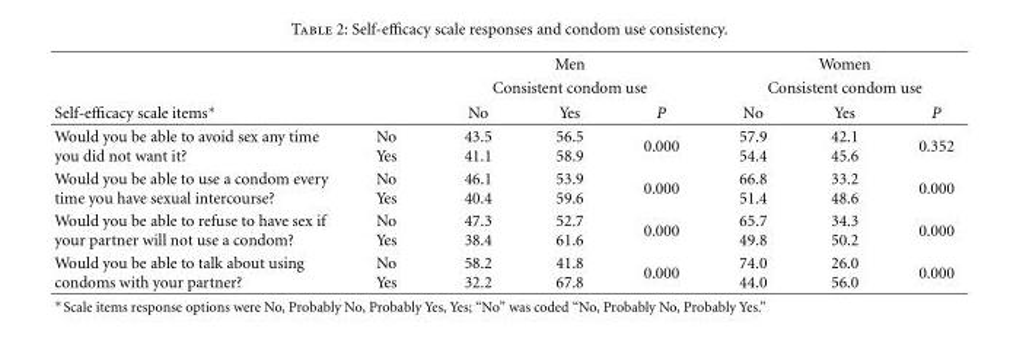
<table><thead><tr><td rowspan="3">Self-efficacy scale items∗</td><td rowspan="3"></td><td rowspan="2" colspan="3">Men Consistent condom use</td><td rowspan="2" colspan="3">Women Consistent condom use</td></tr><tr></tr><tr><td>No</td><td>Yes</td><td>P</td><td>No</td><td>Yes</td><td>P</td></tr></thead><tbody><tr><td>Would you be able to avoid sex any time you did not want it?</td><td>No Yes</td><td>43.5 41.1</td><td>56.5 58.9</td><td>0.000</td><td>57.9 54.4</td><td>42.1 45.6</td><td>0.352</td></tr><tr><td>Would you be able to use a condom every time you have sexual intercourse?</td><td>No Yes</td><td>46.1 40.4</td><td>53.9 59.6</td><td>0.000</td><td>66.8 51.4</td><td>33.2 48.6</td><td>0.000</td></tr><tr><td>Would you be able to refuse to have sex if your partner will not use a condom?</td><td>No Yes</td><td>47.3 38.4</td><td>52.7 61.6</td><td>0.000</td><td>65.7 49.8</td><td>34.3 50.2</td><td>0.000</td></tr><tr><td>Would you be able to talk about using condoms with your partner?</td><td>No Yes</td><td>58.2 32.2</td><td>41.8 67.8</td><td>0.000</td><td>74.0 44.0</td><td>26.0 56.0</td><td>0.000</td></tr></tbody></table>